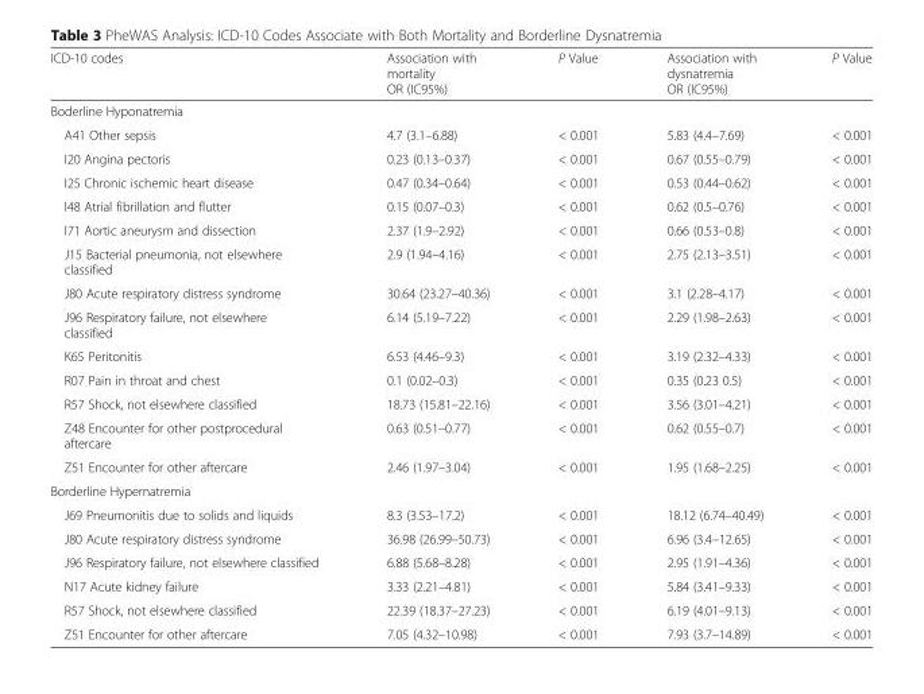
<table><thead><tr><td>ICD-10 codes</td><td>Association with mortality OR (IC95%)</td><td>P Value</td><td>Association with dysnatremia OR (IC95%)</td><td>P Value</td></tr></thead><tbody><tr><td colspan="5">Boderline Hyponatremia</td></tr><tr><td>A41 Other sepsis</td><td>4.7 (3.1–6.88)</td><td>&lt; 0.001</td><td>5.83 (4.4–7.69)</td><td>&lt; 0.001</td></tr><tr><td>I20 Angina pectoris</td><td>0.23 (0.13–0.37)</td><td>&lt; 0.001</td><td>0.67 (0.55–0.79)</td><td>&lt; 0.001</td></tr><tr><td>I25 Chronic ischemic heart disease</td><td>0.47 (0.34–0.64)</td><td>&lt; 0.001</td><td>0.53 (0.44–0.62)</td><td>&lt; 0.001</td></tr><tr><td>I48 Atrial fibrillation and flutter</td><td>0.15 (0.07–0.3)</td><td>&lt; 0.001</td><td>0.62 (0.5–0.76)</td><td>&lt; 0.001</td></tr><tr><td>I71 Aortic aneurysm and dissection</td><td>2.37 (1.9–2.92)</td><td>&lt; 0.001</td><td>0.66 (0.53–0.8)</td><td>&lt; 0.001</td></tr><tr><td>J15 Bacterial pneumonia, not elsewhere classified</td><td>2.9 (1.94–4.16)</td><td>&lt; 0.001</td><td>2.75 (2.13–3.51)</td><td>&lt; 0.001</td></tr><tr><td>J80 Acute respiratory distress syndrome</td><td>30.64 (23.27–40.36)</td><td>&lt; 0.001</td><td>3.1 (2.28–4.17)</td><td>&lt; 0.001</td></tr><tr><td>J96 Respiratory failure, not elsewhere classified</td><td>6.14 (5.19–7.22)</td><td>&lt; 0.001</td><td>2.29 (1.98–2.63)</td><td>&lt; 0.001</td></tr><tr><td>K65 Peritonitis</td><td>6.53 (4.46–9.3)</td><td>&lt; 0.001</td><td>3.19 (2.32–4.33)</td><td>&lt; 0.001</td></tr><tr><td>R07 Pain in throat and chest</td><td>0.1 (0.02–0.3)</td><td>&lt; 0.001</td><td>0.35 (0.23 0.5)</td><td>&lt; 0.001</td></tr><tr><td>R57 Shock, not elsewhere classified</td><td>18.73 (15.81–22.16)</td><td>&lt; 0.001</td><td>3.56 (3.01–4.21)</td><td>&lt; 0.001</td></tr><tr><td>Z48 Encounter for other postprocedural aftercare</td><td>0.63 (0.51–0.77)</td><td>&lt; 0.001</td><td>0.62 (0.55–0.7)</td><td>&lt; 0.001</td></tr><tr><td>Z51 Encounter for other aftercare</td><td>2.46 (1.97–3.04)</td><td>&lt; 0.001</td><td>1.95 (1.68–2.25)</td><td>&lt; 0.001</td></tr><tr><td colspan="5">Borderline Hypernatremia</td></tr><tr><td>J69 Pneumonitis due to solids and liquids</td><td>8.3 (3.53–17.2)</td><td>&lt; 0.001</td><td>18.12 (6.74–40.49)</td><td>&lt; 0.001</td></tr><tr><td>J80 Acute respiratory distress syndrome</td><td>36.98 (26.99–50.73)</td><td>&lt; 0.001</td><td>6.96 (3.4–12.65)</td><td>&lt; 0.001</td></tr><tr><td>J96 Respiratory failure, not elsewhere classified</td><td>6.88 (5.68–8.28)</td><td>&lt; 0.001</td><td>2.95 (1.91–4.36)</td><td>&lt; 0.001</td></tr><tr><td>N17 Acute kidney failure</td><td>3.33 (2.21–4.81)</td><td>&lt; 0.001</td><td>5.84 (3.41–9.33)</td><td>&lt; 0.001</td></tr><tr><td>R57 Shock, not elsewhere classified</td><td>22.39 (18.37–27.23)</td><td>&lt; 0.001</td><td>6.19 (4.01–9.13)</td><td>&lt; 0.001</td></tr><tr><td>Z51 Encounter for other aftercare</td><td>7.05 (4.32–10.98)</td><td>&lt; 0.001</td><td>7.93 (3.7–14.89)</td><td>&lt; 0.001</td></tr></tbody></table>